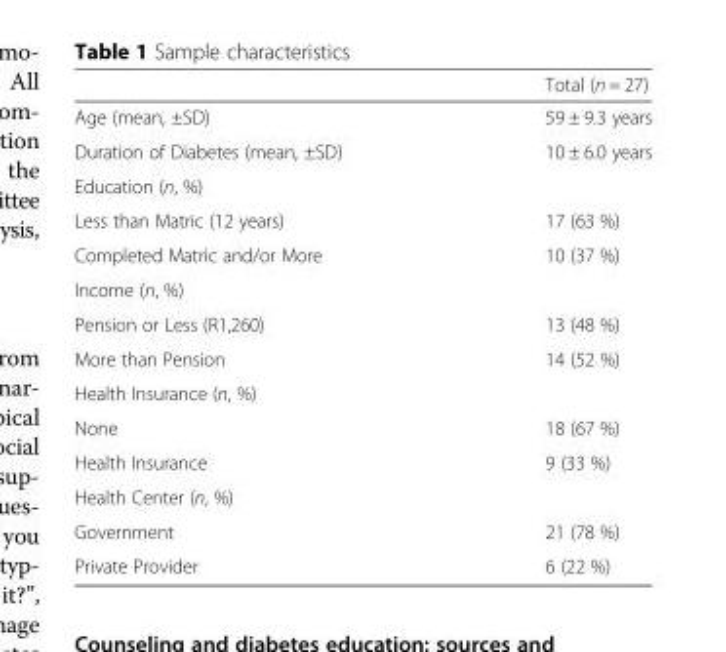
<table><thead><tr><td></td><td>Total (n = 27)</td></tr></thead><tbody><tr><td>Age (mean, ±SD)</td><td>59 ± 9.3 years</td></tr><tr><td>Duration of Diabetes (mean, ±SD)</td><td>10 ± 6.0 years</td></tr><tr><td colspan="2">Education (n, %)</td></tr><tr><td>Less than Matric (12 years)</td><td>17 (63 %)</td></tr><tr><td>Completed Matric and/or More</td><td>10 (37 %)</td></tr><tr><td colspan="2">Income (n, %)</td></tr><tr><td>Pension or Less (R1,260)</td><td>13 (48 %)</td></tr><tr><td>More than Pension</td><td>14 (52 %)</td></tr><tr><td colspan="2">Health Insurance (n, %)</td></tr><tr><td>None</td><td>18 (67 %)</td></tr><tr><td>Health Insurance</td><td>9 (33 %)</td></tr><tr><td colspan="2">Health Center (n, %)</td></tr><tr><td>Government</td><td>21 (78 %)</td></tr><tr><td>Private Provider</td><td>6 (22 %)</td></tr></tbody></table>